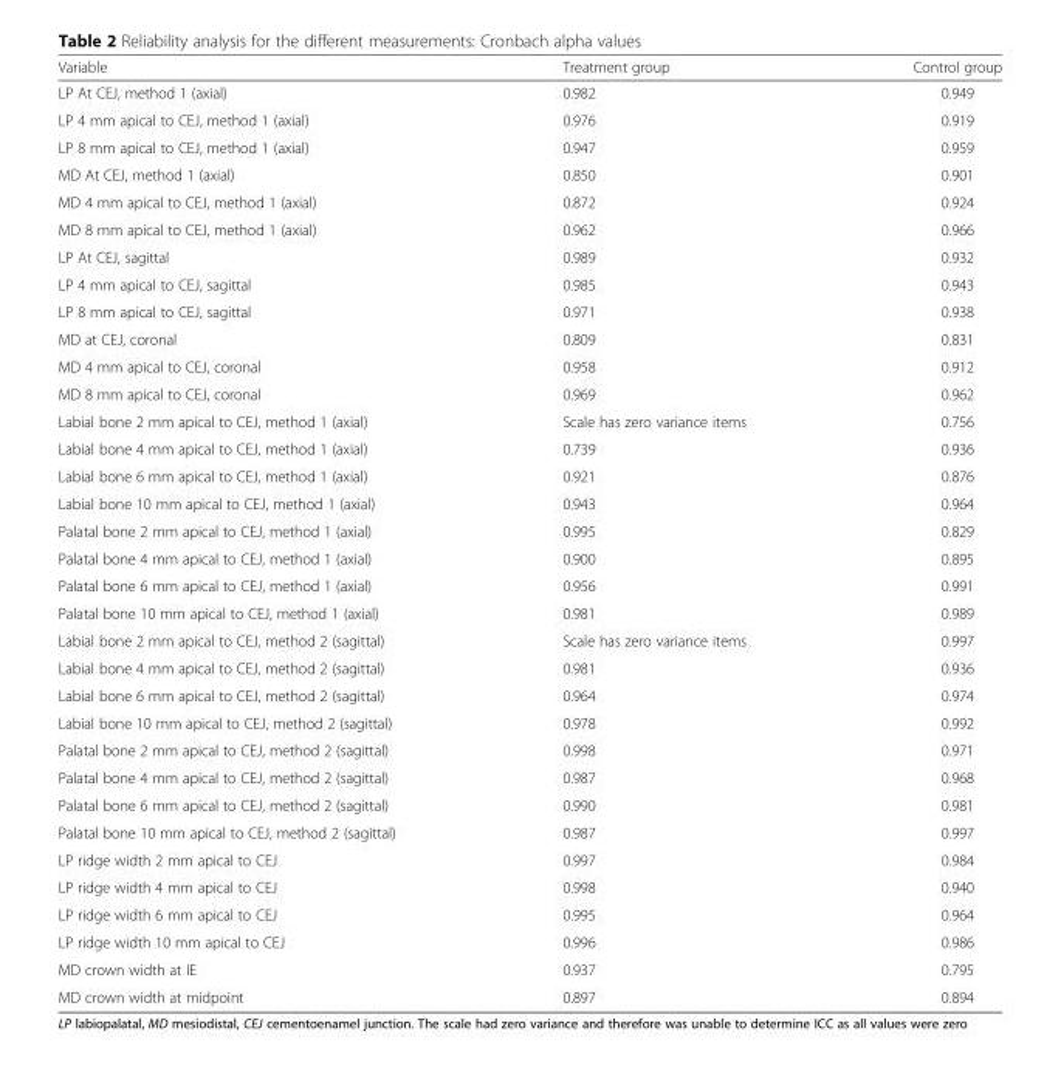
<table><thead><tr><td>Variable</td><td>Treatment group</td><td>Control group</td></tr></thead><tbody><tr><td>LP At CEJ, method 1 (axial)</td><td>0.982</td><td>0.949</td></tr><tr><td>LP 4 mm apical to CEJ, method 1 (axial)</td><td>0.976</td><td>0.919</td></tr><tr><td>LP 8 mm apical to CEJ, method 1 (axial)</td><td>0.947</td><td>0.959</td></tr><tr><td>MD At CEJ, method 1 (axial)</td><td>0.850</td><td>0.901</td></tr><tr><td>MD 4 mm apical to CEJ, method 1 (axial)</td><td>0.872</td><td>0.924</td></tr><tr><td>MD 8 mm apical to CEJ, method 1 (axial)</td><td>0.962</td><td>0.966</td></tr><tr><td>LP At CEJ, sagittal</td><td>0.989</td><td>0.932</td></tr><tr><td>LP 4 mm apical to CEJ, sagittal</td><td>0.985</td><td>0.943</td></tr><tr><td>LP 8 mm apical to CEJ, sagittal</td><td>0.971</td><td>0.938</td></tr><tr><td>MD at CEJ, coronal</td><td>0.809</td><td>0.831</td></tr><tr><td>MD 4 mm apical to CEJ, coronal</td><td>0.958</td><td>0.912</td></tr><tr><td>MD 8 mm apical to CEJ, coronal</td><td>0.969</td><td>0.962</td></tr><tr><td>Labial bone 2 mm apical to CEJ, method 1 (axial)</td><td>Scale has zero variance items</td><td>0.756</td></tr><tr><td>Labial bone 4 mm apical to CEJ, method 1 (axial)</td><td>0.739</td><td>0.936</td></tr><tr><td>Labial bone 6 mm apical to CEJ, method 1 (axial)</td><td>0.921</td><td>0.876</td></tr><tr><td>Labial bone 10 mm apical to CEJ, method 1 (axial)</td><td>0.943</td><td>0.964</td></tr><tr><td>Palatal bone 2 mm apical to CEJ, method 1 (axial)</td><td>0.995</td><td>0.829</td></tr><tr><td>Palatal bone 4 mm apical to CEJ, method 1 (axial)</td><td>0.900</td><td>0.895</td></tr><tr><td>Palatal bone 6 mm apical to CEJ, method 1 (axial)</td><td>0.956</td><td>0.991</td></tr><tr><td>Palatal bone 10 mm apical to CEJ, method 1 (axial)</td><td>0.981</td><td>0.989</td></tr><tr><td>Labial bone 2 mm apical to CEJ, method 2 (sagittal)</td><td>Scale has zero variance items</td><td>0.997</td></tr><tr><td>Labial bone 4 mm apical to CEJ, method 2 (sagittal)</td><td>0.981</td><td>0.936</td></tr><tr><td>Labial bone 6 mm apical to CEJ, method 2 (sagittal)</td><td>0.964</td><td>0.974</td></tr><tr><td>Labial bone 10 mm apical to CEJ, method 2 (sagittal)</td><td>0.978</td><td>0.992</td></tr><tr><td>Palatal bone 2 mm apical to CEJ, method 2 (sagittal)</td><td>0.998</td><td>0.971</td></tr><tr><td>Palatal bone 4 mm apical to CEJ, method 2 (sagittal)</td><td>0.987</td><td>0.968</td></tr><tr><td>Palatal bone 6 mm apical to CEJ, method 2 (sagittal)</td><td>0.990</td><td>0.981</td></tr><tr><td>Palatal bone 10 mm apical to CEJ, method 2 (sagittal)</td><td>0.987</td><td>0.997</td></tr><tr><td>LP ridge width 2 mm apical to CEJ</td><td>0.997</td><td>0.984</td></tr><tr><td>LP ridge width 4 mm apical to CEJ</td><td>0.998</td><td>0.940</td></tr><tr><td>LP ridge width 6 mm apical to CEJ</td><td>0.995</td><td>0.964</td></tr><tr><td>LP ridge width 10 mm apical to CEJ</td><td>0.996</td><td>0.986</td></tr><tr><td>MD crown width at IE</td><td>0.937</td><td>0.795</td></tr><tr><td>MD crown width at midpoint</td><td>0.897</td><td>0.894</td></tr></tbody></table>